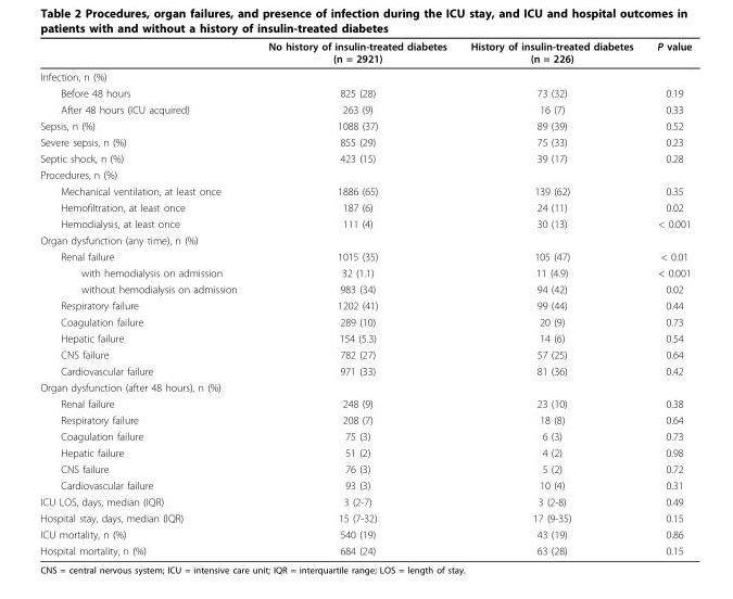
<table><thead><tr><td></td><td>No history of insulin-treated diabetes (n = 2921)</td><td>History of insulin-treated diabetes (n = 226)</td><td>P value</td></tr></thead><tbody><tr><td colspan="4">Infection, n (%)</td></tr><tr><td>Before 48 hours</td><td>825 (28)</td><td>73 (32)</td><td>0.19</td></tr><tr><td>After 48 hours (ICU acquired)</td><td>263 (9)</td><td>16 (7)</td><td>0.33</td></tr><tr><td>Sepsis, n (%)</td><td>1088 (37)</td><td>89 (39)</td><td>0.52</td></tr><tr><td>Severe sepsis, n (%)</td><td>855 (29)</td><td>75 (33)</td><td>0.23</td></tr><tr><td>Septic shock, n (%)</td><td>423 (15)</td><td>39 (17)</td><td>0.28</td></tr><tr><td colspan="4">Procedures, n (%)</td></tr><tr><td>Mechanical ventilation, at least once</td><td>1886 (65)</td><td>139 (62)</td><td>0.35</td></tr><tr><td>Hemofiltration, at least once</td><td>187 (6)</td><td>24 (11)</td><td>0.02</td></tr><tr><td>Hemodialysis, at least once</td><td>111 (4)</td><td>30 (13)</td><td>&lt; 0.001</td></tr><tr><td colspan="4">Organ dysfunction (any time), n (%)</td></tr><tr><td>Renal failure</td><td>1015 (35)</td><td>105 (47)</td><td>&lt; 0.01</td></tr><tr><td>with hemodialysis on admission</td><td>32 (1.1)</td><td>11 (4.9)</td><td>&lt; 0.001</td></tr><tr><td>without hemodialysis on admission</td><td>983 (34)</td><td>94 (42)</td><td>0.02</td></tr><tr><td>Respiratory failure</td><td>1202 (41)</td><td>99 (44)</td><td>0.44</td></tr><tr><td>Coagulation failure</td><td>289 (10)</td><td>20 (9)</td><td>0.73</td></tr><tr><td>Hepatic failure</td><td>154 (5.3)</td><td>14 (6)</td><td>0.54</td></tr><tr><td>CNS failure</td><td>782 (27)</td><td>57 (25)</td><td>0.64</td></tr><tr><td>Cardiovascular failure</td><td>971 (33)</td><td>81 (36)</td><td>0.42</td></tr><tr><td colspan="4">Organ dysfunction (after 48 hours), n (%)</td></tr><tr><td>Renal failure</td><td>248 (9)</td><td>23 (10)</td><td>0.38</td></tr><tr><td>Respiratory failure</td><td>208 (7)</td><td>18 (8)</td><td>0.64</td></tr><tr><td>Coagulation failure</td><td>75 (3)</td><td>6 (3)</td><td>0.73</td></tr><tr><td>Hepatic failure</td><td>51 (2)</td><td>4 (2)</td><td>0.98</td></tr><tr><td>CNS failure</td><td>76 (3)</td><td>5 (2)</td><td>0.72</td></tr><tr><td>Cardiovascular failure</td><td>93 (3)</td><td>10 (4)</td><td>0.31</td></tr><tr><td>ICU LOS, days, median (IQR)</td><td>3 (2-7)</td><td>3 (2-8)</td><td>0.49</td></tr><tr><td>Hospital stay, days, median (IQR)</td><td>15 (7-32)</td><td>17 (9-35)</td><td>0.15</td></tr><tr><td>ICU mortality, n (%)</td><td>540 (19)</td><td>43 (19)</td><td>0.86</td></tr><tr><td>Hospital mortality, n (%)</td><td>684 (24)</td><td>63 (28)</td><td>0.15</td></tr></tbody></table>